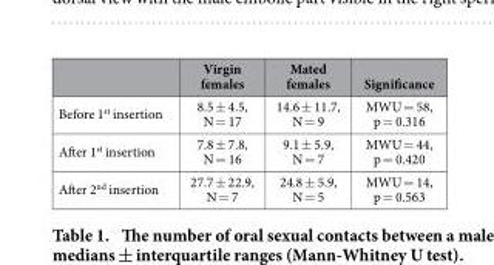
<table><thead><tr><td></td><td>Virgin females</td><td>Mated females</td><td>Significance</td></tr></thead><tbody><tr><td>Before 1<sup>st</sup> insertion</td><td>8.5 ± 4.5, N = 17</td><td>14.6 ± 11.7, N = 9</td><td>MWU = 58, p = 0.316</td></tr><tr><td>After 1<sup>st</sup> insertion</td><td>7.8 ± 7.8, N = 16</td><td>9.1 ± 5.9, N = 7</td><td>MWU = 44, p = 0.420</td></tr><tr><td>After 2<sup>nd</sup> insertion</td><td>27.7 ± 22.9, N = 7</td><td>24.8 ± 5.9, N = 5</td><td>MWU = 14, p = 0.563</td></tr></tbody></table>